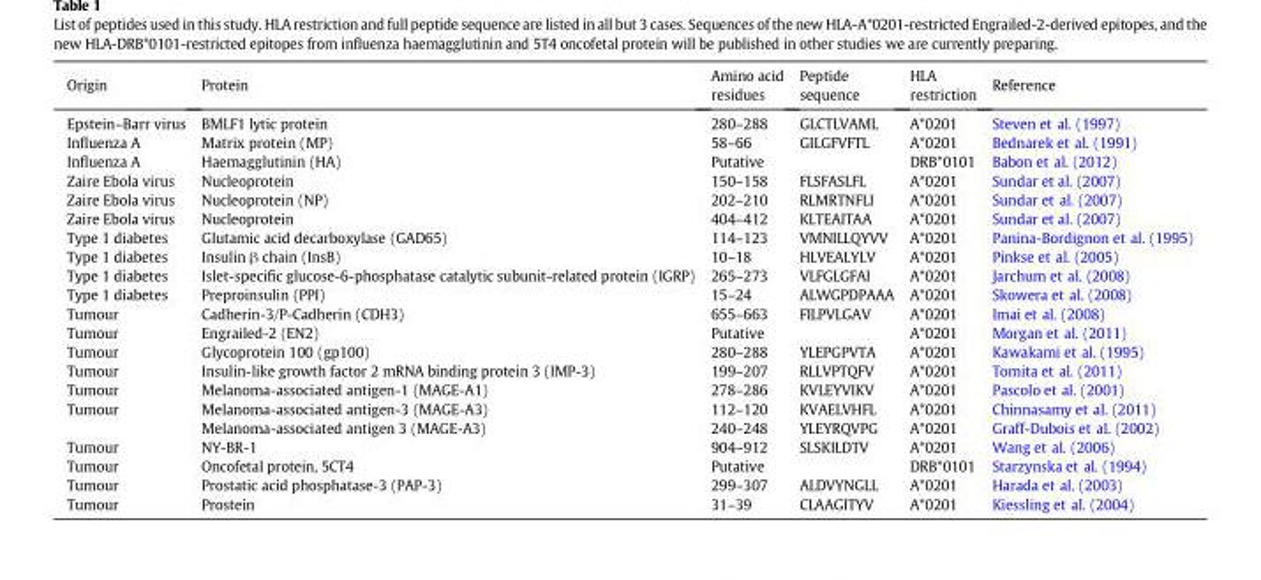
<table><thead><tr><td>Origin</td><td>Protein</td><td>Amino acid residues</td><td>Peptide sequence</td><td>HLA restriction</td><td>Reference</td></tr></thead><tbody><tr><td>Epstein–Barr virus</td><td>BMLF1 lytic protein</td><td>280–288</td><td>GLCTLVAML</td><td>A*0201</td><td>Steven et al. (1997)</td></tr><tr><td>Influenza A</td><td>Matrix protein (MP)</td><td>58–66</td><td>GILGFVFTL</td><td>A*0201</td><td>Bednarek et al. (1991)</td></tr><tr><td>Influenza A</td><td>Haemagglutinin (HA)</td><td colspan="2">Putative</td><td>DRB*0101</td><td>Babon et al. (2012)</td></tr><tr><td>Zaire Ebola virus</td><td>Nucleoprotein</td><td>150–158</td><td>FLSFASLFL</td><td>A*0201</td><td>Sundar et al. (2007)</td></tr><tr><td>Zaire Ebola virus</td><td>Nucleoprotein (NP)</td><td>202–210</td><td>RLMRTNFLI</td><td>A*0201</td><td>Sundar et al. (2007)</td></tr><tr><td>Zaire Ebola virus</td><td>Nucleoprotein</td><td>404–412</td><td>KLTEAITAA</td><td>A*0201</td><td>Sundar et al. (2007)</td></tr><tr><td>Type 1 diabetes</td><td>Glutamic acid decarboxylase (GAD65)</td><td>114–123</td><td>VMNILLQYVV</td><td>A*0201</td><td>Panina-Bordignon et al. (1995)</td></tr><tr><td>Type 1 diabetes</td><td>Insulin β chain (InsB)</td><td>10–18</td><td>HLVEALYLV</td><td>A*0201</td><td>Pinkse et al. (2005)</td></tr><tr><td>Type 1 diabetes</td><td>Islet-specific glucose-6-phosphatase catalytic subunit-related protein (IGRP)</td><td>265–273</td><td>VLFGLGFAI</td><td>A*0201</td><td>Jarchum et al. (2008)</td></tr><tr><td>Type 1 diabetes</td><td>Preproinsulin (PPI)</td><td>15–24</td><td>ALWGPDPAAA</td><td>A*0201</td><td>Skowera et al. (2008)</td></tr><tr><td>Tumour</td><td>Cadherin-3/P-Cadherin (CDH3)</td><td>655–663</td><td>FILPVLGAV</td><td>A*0201</td><td>Imai et al. (2008)</td></tr><tr><td>Tumour</td><td>Engrailed-2 (EN2)</td><td colspan="2">Putative</td><td>A*0201</td><td>Morgan et al. (2011)</td></tr><tr><td>Tumour</td><td>Glycoprotein 100 (gp100)</td><td>280–288</td><td>YLEPGPVTA</td><td>A*0201</td><td>Kawakami et al. (1995)</td></tr><tr><td>Tumour</td><td>Insulin-like growth factor 2 mRNA binding protein 3 (IMP-3)</td><td>199–207</td><td>RLLVPTQFV</td><td>A*0201</td><td>Tomita et al. (2011)</td></tr><tr><td>Tumour</td><td>Melanoma-associated antigen-1 (MAGE-A1)</td><td>278–286</td><td>KVLEYVIKV</td><td>A*0201</td><td>Pascolo et al. (2001)</td></tr><tr><td rowspan="2">Tumour</td><td>Melanoma-associated antigen-3 (MAGE-A3)</td><td>112–120</td><td>KVAELVHFL</td><td>A*0201</td><td>Chinnasamy et al. (2011)</td></tr><tr><td>Melanoma-associated antigen 3 (MAGE-A3)</td><td>240–248</td><td>YLEYRQVPG</td><td>A*0201</td><td>Graff-Dubois et al. (2002)</td></tr><tr><td>Tumour</td><td>NY-BR-1</td><td>904–912</td><td>SLSKILDTV</td><td>A*0201</td><td>Wang et al. (2006)</td></tr><tr><td>Tumour</td><td>Oncofetal protein, 5CT4</td><td colspan="2">Putative</td><td>DRB*0101</td><td>Starzynska et al. (1994)</td></tr><tr><td>Tumour</td><td>Prostatic acid phosphatase-3 (PAP-3)</td><td>299–307</td><td>ALDVYNGLL</td><td>A*0201</td><td>Harada et al. (2003)</td></tr><tr><td>Tumour</td><td>Prostein</td><td>31–39</td><td>CLAAGITYV</td><td>A*0201</td><td>Kiessling et al. (2004)</td></tr></tbody></table>